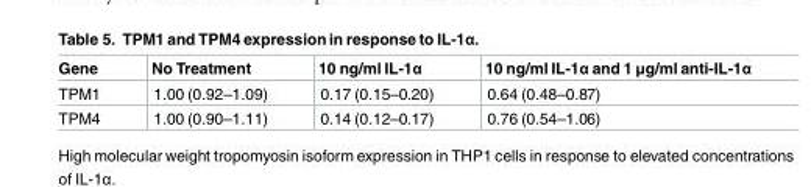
<table><thead><tr><td>Gene</td><td>No Treatment</td><td>10 ng/ml IL-1α</td><td>10 ng/ml IL-1α and 1 μg/ml anti-IL-1α</td></tr></thead><tbody><tr><td>TPM1</td><td>1.00 (0.92–1.09)</td><td>0.17 (0.15–0.20)</td><td>0.64 (0.48–0.87)</td></tr><tr><td>TPM4</td><td>1.00 (0.90–1.11)</td><td>0.14 (0.12–0.17)</td><td>0.76 (0.54–1.06)</td></tr></tbody></table>